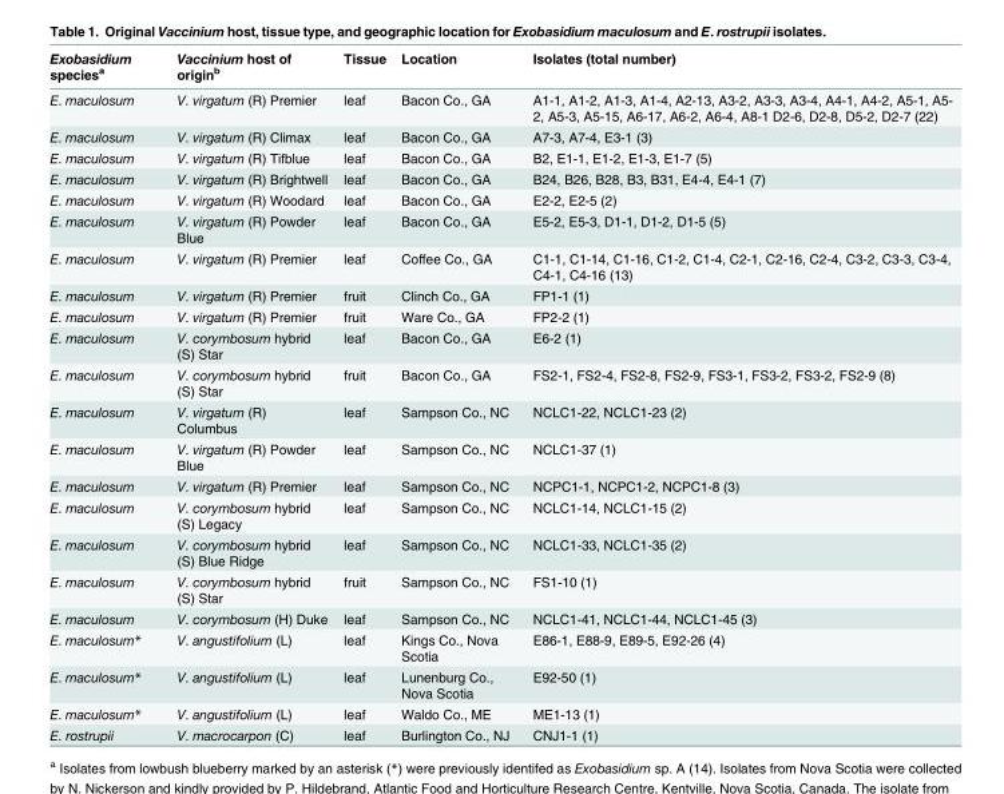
<table><thead><tr><td>Exobasidium species<sup>a</sup></td><td>Vaccinium host of origin<sup>b</sup></td><td>Tissue</td><td>Location</td><td>Isolates (total number)</td></tr></thead><tbody><tr><td>E. maculosum</td><td>V. virgatum (R) Premier</td><td>leaf</td><td>Bacon Co., GA</td><td>A1-1, A1-2, A1-3, A1-4, A2-13, A3-2, A3-3, A3-4, A4-1, A4-2, A5-1, A5- 2, A5-3, A5-15, A6-17, A6-2, A6-4, A8-1 D2-6, D2-8, D5-2, D2-7 (22)</td></tr><tr><td>E. maculosum</td><td>V. virgatum (R) Climax</td><td>leaf</td><td>Bacon Co., GA</td><td>A7-3, A7-4, E3-1 (3)</td></tr><tr><td>E. maculosum</td><td>V. virgatum (R) Tifblue</td><td>leaf</td><td>Bacon Co., GA</td><td>B2, E1-1, E1-2, E1-3, E1-7 (5)</td></tr><tr><td>E. maculosum</td><td>V. virgatum (R) Brightwell</td><td>leaf</td><td>Bacon Co., GA</td><td>B24, B26, B28, B3, B31, E4-4, E4-1 (7)</td></tr><tr><td>E. maculosum</td><td>V. virgatum (R) Woodard</td><td>leaf</td><td>Bacon Co., GA</td><td>E2-2, E2-5 (2)</td></tr><tr><td>E. maculosum</td><td>V. virgatum (R) Powder Blue</td><td>leaf</td><td>Bacon Co., GA</td><td>E5-2, E5-3, D1-1, D1-2, D1-5 (5)</td></tr><tr><td>E. maculosum</td><td>V. virgatum (R) Premier</td><td>leaf</td><td>Coffee Co., GA</td><td>C1-1, C1-14, C1-16, C1-2, C1-4, C2-1, C2-16, C2-4, C3-2, C3-3, C3-4, C4-1, C4-16 (13)</td></tr><tr><td>E. maculosum</td><td>V. virgatum (R) Premier</td><td>fruit</td><td>Clinch Co., GA</td><td>FP1-1 (1)</td></tr><tr><td>E. maculosum</td><td>V. virgatum (R) Premier</td><td>fruit</td><td>Ware Co., GA</td><td>FP2-2 (1)</td></tr><tr><td>E. maculosum</td><td>V. corymbosum hybrid (S) Star</td><td>leaf</td><td>Bacon Co., GA</td><td>E6-2 (1)</td></tr><tr><td>E. maculosum</td><td>V. corymbosum hybrid (S) Star</td><td>fruit</td><td>Bacon Co., GA</td><td>FS2-1, FS2-4, FS2-8, FS2-9, FS3-1, FS3-2, FS3-2, FS2-9 (8)</td></tr><tr><td>E. maculosum</td><td>V. virgatum (R) Columbus</td><td>leaf</td><td>Sampson Co., NC</td><td>NCLC1-22, NCLC1-23 (2)</td></tr><tr><td>E. maculosum</td><td>V. virgatum (R) Powder Blue</td><td>leaf</td><td>Sampson Co., NC</td><td>NCLC1-37 (1)</td></tr><tr><td>E. maculosum</td><td>V. virgatum (R) Premier</td><td>leaf</td><td>Sampson Co., NC</td><td>NCPC1-1, NCPC1-2, NCPC1-8 (3)</td></tr><tr><td>E. maculosum</td><td>V. corymbosum hybrid (S) Legacy</td><td>leaf</td><td>Sampson Co., NC</td><td>NCLC1-14, NCLC1-15 (2)</td></tr><tr><td>E. maculosum</td><td>V. corymbosum hybrid (S) Blue Ridge</td><td>leaf</td><td>Sampson Co., NC</td><td>NCLC1-33, NCLC1-35 (2)</td></tr><tr><td>E. maculosum</td><td>V. corymbosum hybrid (S) Star</td><td>fruit</td><td>Sampson Co., NC</td><td>FS1-10 (1)</td></tr><tr><td>E. maculosum</td><td>V. corymbosum (H) Duke</td><td>leaf</td><td>Sampson Co., NC</td><td>NCLC1-41, NCLC1-44, NCLC1-45 (3)</td></tr><tr><td>E. maculosum*</td><td>V. angustifolium (L)</td><td>leaf</td><td>Kings Co., Nova Scotia</td><td>E86-1, E88-9, E89-5, E92-26 (4)</td></tr><tr><td>E. maculosum*</td><td>V. angustifolium (L)</td><td>leaf</td><td>Lunenburg Co., Nova Scotia</td><td>E92-50 (1)</td></tr><tr><td>E. maculosum*</td><td>V. angustifolium (L)</td><td>leaf</td><td>Waldo Co., ME</td><td>ME1-13 (1)</td></tr><tr><td>E. rostrupii</td><td>V. macrocarpon (C)</td><td>leaf</td><td>Burlington Co., NJ</td><td>CNJ1-1 (1)</td></tr></tbody></table>